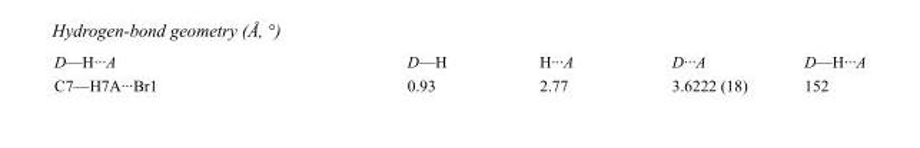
<table><tbody><tr><td>D—H···A</td><td>D—H</td><td>H···A</td><td>D···A</td><td>D—H···A</td></tr><tr><td>C7—H7A···Br1</td><td>0.93</td><td>2.77</td><td>3.6222 (18)</td><td>152</td></tr></tbody></table>